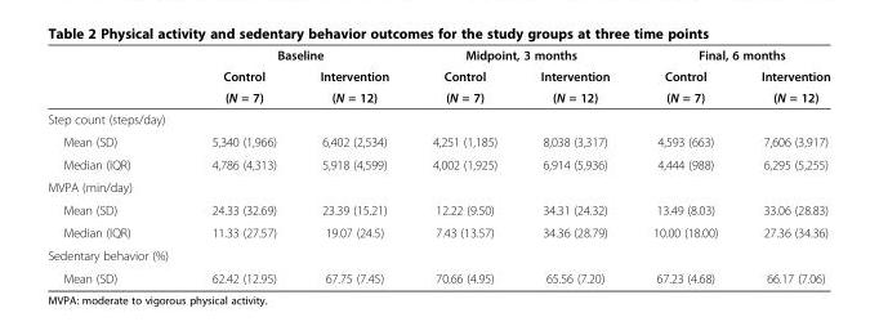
<table><thead><tr><td rowspan="3"></td><td colspan="2">Baseline</td><td colspan="2">Midpoint, 3 months</td><td colspan="2">Final, 6 months</td></tr><tr><td rowspan="2">Control (N = 7)</td><td rowspan="2">Intervention (N = 12)</td><td rowspan="2">Control (N = 7)</td><td rowspan="2">Intervention (N = 12)</td><td rowspan="2">Control (N = 7)</td><td rowspan="2">Intervention (N = 12)</td></tr><tr></tr></thead><tbody><tr><td colspan="7">Step count (steps/day)</td></tr><tr><td>Mean (SD)</td><td>5,340 (1,966)</td><td>6,402 (2,534)</td><td>4,251 (1,185)</td><td>8,038 (3,317)</td><td>4,593 (663)</td><td>7,606 (3,917)</td></tr><tr><td>Median (IQR)</td><td>4,786 (4,313)</td><td>5,918 (4,599)</td><td>4,002 (1,925)</td><td>6,914 (5,936)</td><td>4,444 (988)</td><td>6,295 (5,255)</td></tr><tr><td colspan="7">MVPA (min/day)</td></tr><tr><td>Mean (SD)</td><td>24.33 (32.69)</td><td>23.39 (15.21)</td><td>12.22 (9.50)</td><td>34.31 (24.32)</td><td>13.49 (8.03)</td><td>33.06 (28.83)</td></tr><tr><td>Median (IQR)</td><td>11.33 (27.57)</td><td>19.07 (24.5)</td><td>7.43 (13.57)</td><td>34.36 (28.79)</td><td>10.00 (18.00)</td><td>27.36 (34.36)</td></tr><tr><td colspan="7">Sedentary behavior (%)</td></tr><tr><td>Mean (SD)</td><td>62.42 (12.95)</td><td>67.75 (7.45)</td><td>70.66 (4.95)</td><td>65.56 (7.20)</td><td>67.23 (4.68)</td><td>66.17 (7.06)</td></tr></tbody></table>